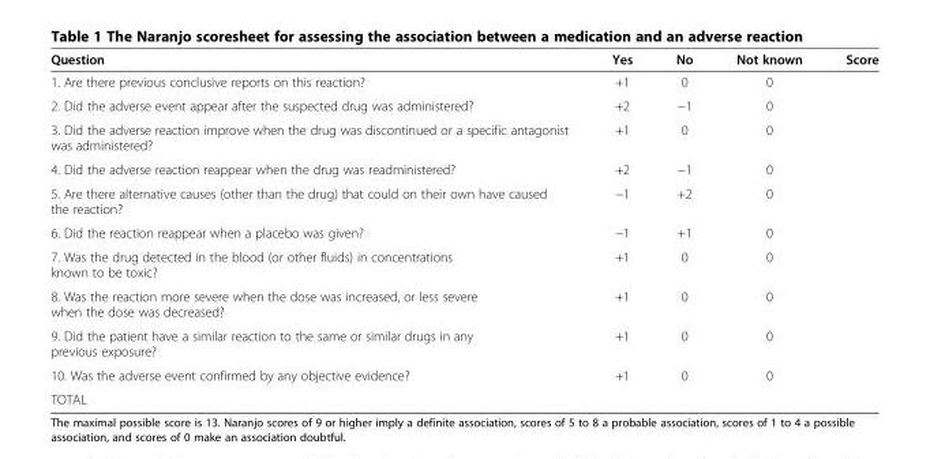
<table><thead><tr><td>Question</td><td>Yes</td><td>No</td><td>Not known</td><td>Score</td></tr></thead><tbody><tr><td>1. Are there previous conclusive reports on this reaction?</td><td>+1</td><td>0</td><td>0</td><td></td></tr><tr><td>2. Did the adverse event appear after the suspected drug was administered?</td><td>+2</td><td>−1</td><td>0</td><td></td></tr><tr><td>3. Did the adverse reaction improve when the drug was discontinued or a specific antagonist was administered?</td><td>+1</td><td>0</td><td>0</td><td></td></tr><tr><td>4. Did the adverse reaction reappear when the drug was readministered?</td><td>+2</td><td>−1</td><td>0</td><td></td></tr><tr><td>5. Are there alternative causes (other than the drug) that could on their own have caused the reaction?</td><td>−1</td><td>+2</td><td>0</td><td></td></tr><tr><td>6. Did the reaction reappear when a placebo was given?</td><td>−1</td><td>+1</td><td>0</td><td></td></tr><tr><td>7. Was the drug detected in the blood (or other fluids) in concentrations known to be toxic?</td><td>+1</td><td>0</td><td>0</td><td></td></tr><tr><td>8. Was the reaction more severe when the dose was increased, or less severe when the dose was decreased?</td><td>+1</td><td>0</td><td>0</td><td></td></tr><tr><td>9. Did the patient have a similar reaction to the same or similar drugs in any previous exposure?</td><td>+1</td><td>0</td><td>0</td><td></td></tr><tr><td>10. Was the adverse event confirmed by any objective evidence?</td><td>+1</td><td>0</td><td>0</td><td></td></tr><tr><td colspan="4">TOTAL</td><td></td></tr></tbody></table>